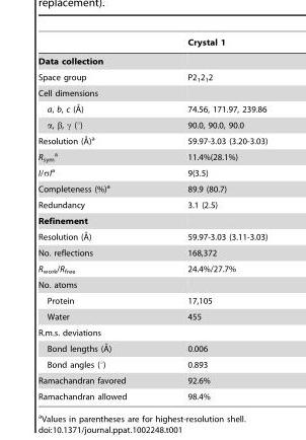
<table><thead><tr><td></td><td>Crystal 1</td></tr></thead><tbody><tr><td colspan="2">Data collection</td></tr><tr><td>Space group</td><td>P2<sub>1</sub>2<sub>1</sub>2</td></tr><tr><td colspan="2">Cell dimensions</td></tr><tr><td>a, b, c (A˚)</td><td>74.56, 171.97, 239.86</td></tr><tr><td>α, β, γ (°)</td><td>90.0, 90.0, 90.0</td></tr><tr><td>Resolution (A˚)a</td><td>59.97-3.03 (3.20-3.03)</td></tr><tr><td>R<sub>sym</sub> a</td><td>11.4%(28.1%)</td></tr><tr><td>I/σIa</td><td>9(3.5)</td></tr><tr><td>Completeness (%)<sup>a</sup></td><td>89.9 (80.7)</td></tr><tr><td>Redundancy</td><td>3.1 (2.5)</td></tr><tr><td colspan="2">Refinement</td></tr><tr><td>Resolution (A˚)</td><td>59.97-3.03 (3.11-3.03)</td></tr><tr><td>No. reflections</td><td>168,372</td></tr><tr><td>R<sub>work</sub>/R<sub>free</sub></td><td>24.4%/27.7%</td></tr><tr><td colspan="2">No. atoms</td></tr><tr><td>Protein</td><td>17,105</td></tr><tr><td>Water</td><td>455</td></tr><tr><td colspan="2">R.m.s. deviations</td></tr><tr><td>Bond lengths (A˚)</td><td>0.006</td></tr><tr><td>Bond angles (°)</td><td>0.893</td></tr><tr><td>Ramachandran favored</td><td>92.6%</td></tr><tr><td>Ramachandran allowed</td><td>98.4%</td></tr></tbody></table>